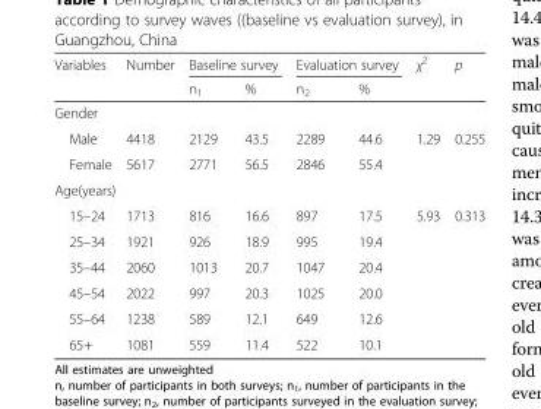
<table><thead><tr><td rowspan="2">Variables</td><td rowspan="2">Number</td><td colspan="2">Baseline survey</td><td colspan="2">Evaluation survey</td><td rowspan="2">χ<sup>2</sup></td><td rowspan="2">p</td></tr><tr><td>n<sub>1</sub></td><td>%</td><td>n<sub>2</sub></td><td>%</td></tr></thead><tbody><tr><td colspan="8">Gender</td></tr><tr><td>Male</td><td>4418</td><td>2129</td><td>43.5</td><td>2289</td><td>44.6</td><td>1.29</td><td>0.255</td></tr><tr><td>Female</td><td>5617</td><td>2771</td><td>56.5</td><td>2846</td><td>55.4</td><td></td><td></td></tr><tr><td colspan="8">Age(years)</td></tr><tr><td>15–24</td><td>1713</td><td>816</td><td>16.6</td><td>897</td><td>17.5</td><td>5.93</td><td>0.313</td></tr><tr><td>25–34</td><td>1921</td><td>926</td><td>18.9</td><td>995</td><td>19.4</td><td></td><td></td></tr><tr><td>35–44</td><td>2060</td><td>1013</td><td>20.7</td><td>1047</td><td>20.4</td><td></td><td></td></tr><tr><td>45–54</td><td>2022</td><td>997</td><td>20.3</td><td>1025</td><td>20.0</td><td></td><td></td></tr><tr><td>55–64</td><td>1238</td><td>589</td><td>12.1</td><td>649</td><td>12.6</td><td></td><td></td></tr><tr><td>65+</td><td>1081</td><td>559</td><td>11.4</td><td>522</td><td>10.1</td><td></td><td></td></tr></tbody></table>